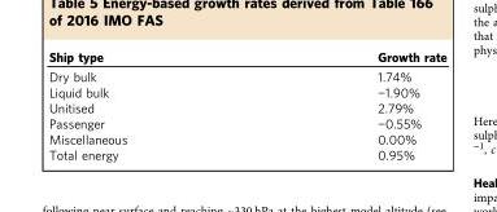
<table><thead><tr><td>Ship type</td><td>Growth rate</td></tr></thead><tbody><tr><td>Dry bulk</td><td>1.74%</td></tr><tr><td>Liquid bulk</td><td>−1.90%</td></tr><tr><td>Unitised</td><td>2.79%</td></tr><tr><td>Passenger</td><td>−0.55%</td></tr><tr><td>Miscellaneous</td><td>0.00%</td></tr><tr><td>Total energy</td><td>0.95%</td></tr></tbody></table>